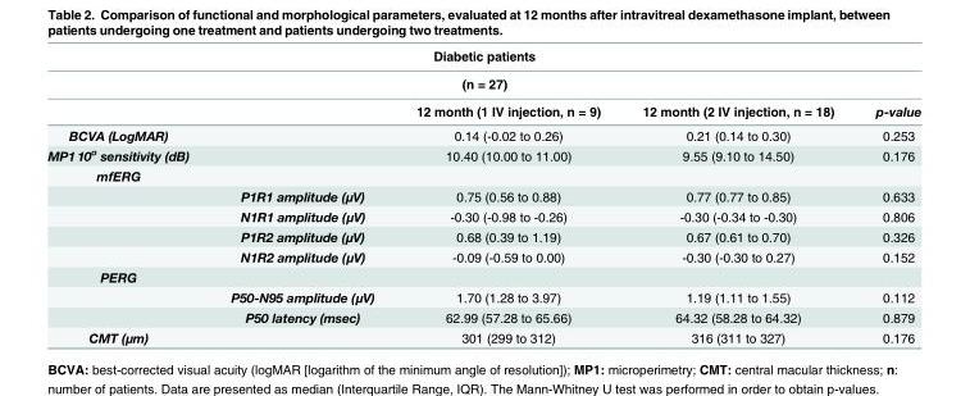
<table><thead><tr><td rowspan="2" colspan="5">Diabetic patients (n = 27)</td></tr><tr></tr><tr><td></td><td></td><td>12 month (1 IV injection, n = 9)</td><td>12 month (2 IV injection, n = 18)</td><td>p-value</td></tr></thead><tbody><tr><td>BCVA (LogMAR)</td><td></td><td>0.14 (-0.02 to 0.26)</td><td>0.21 (0.14 to 0.30)</td><td>0.253</td></tr><tr><td>MP1 10<sup>o</sup> sensitivity (dB)</td><td></td><td>10.40 (10.00 to 11.00)</td><td>9.55 (9.10 to 14.50)</td><td>0.176</td></tr><tr><td colspan="5">mfERG</td></tr><tr><td></td><td>P1R1 amplitude (μV)</td><td>0.75 (0.56 to 0.88)</td><td>0.77 (0.77 to 0.85)</td><td>0.633</td></tr><tr><td></td><td>N1R1 amplitude (μV)</td><td>-0.30 (-0.98 to -0.26)</td><td>-0.30 (-0.34 to -0.30)</td><td>0.806</td></tr><tr><td></td><td>P1R2 amplitude (μV)</td><td>0.68 (0.39 to 1.19)</td><td>0.67 (0.61 to 0.70)</td><td>0.326</td></tr><tr><td></td><td>N1R2 amplitude (μV)</td><td>-0.09 (-0.59 to 0.00)</td><td>-0.30 (-0.30 to 0.27)</td><td>0.152</td></tr><tr><td colspan="5">PERG</td></tr><tr><td></td><td>P50-N95 amplitude (μV)</td><td>1.70 (1.28 to 3.97)</td><td>1.19 (1.11 to 1.55)</td><td>0.112</td></tr><tr><td></td><td>P50 latency (msec)</td><td>62.99 (57.28 to 65.66)</td><td>64.32 (58.28 to 64.32)</td><td>0.879</td></tr><tr><td>CMT (μm)</td><td></td><td>301 (299 to 312)</td><td>316 (311 to 327)</td><td>0.176</td></tr></tbody></table>